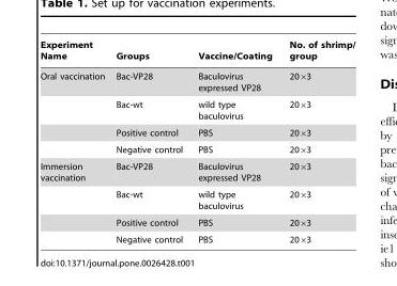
<table><thead><tr><td>Experiment Name</td><td>Groups</td><td>Vaccine/Coating</td><td>No. of shrimp/ group</td></tr></thead><tbody><tr><td rowspan="4">Oral vaccination</td><td>Bac-VP28</td><td>Baculovirus expressed VP28</td><td>20×3</td></tr><tr><td>Bac-wt</td><td>wild type baculovirus</td><td>20×3</td></tr><tr><td>Positive control</td><td>PBS</td><td>20×3</td></tr><tr><td>Negative control</td><td>PBS</td><td>20×3</td></tr><tr><td rowspan="4">Immersion vaccination</td><td>Bac-VP28</td><td>Baculovirus expressed VP28</td><td>20×3</td></tr><tr><td>Bac-wt</td><td>wild type baculovirus</td><td>20×3</td></tr><tr><td>Positive control</td><td>PBS</td><td>20×3</td></tr><tr><td>Negative control</td><td>PBS</td><td>20×3</td></tr></tbody></table>